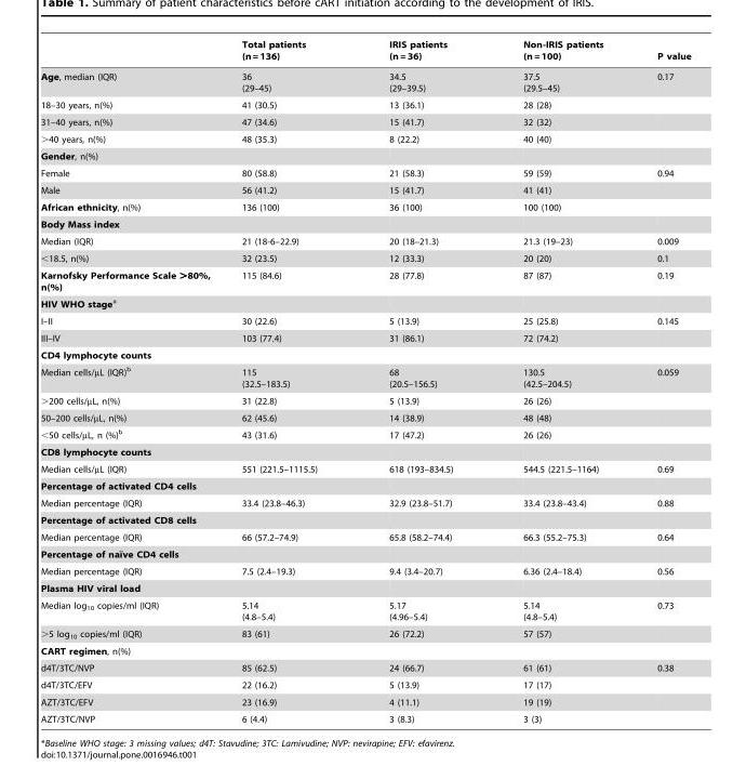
<table><thead><tr><td></td><td>Total patients (n = 136)</td><td>IRIS patients (n = 36)</td><td>Non-IRIS patients (n = 100)</td><td>P value</td></tr></thead><tbody><tr><td>Age, median (IQR)</td><td>36 (29–45)</td><td>34.5 (29–39.5)</td><td>37.5 (29.5–45)</td><td>0.17</td></tr><tr><td>18–30 years, n(%)</td><td>41 (30.5)</td><td>13 (36.1)</td><td>28 (28)</td><td></td></tr><tr><td>31–40 years, n(%)</td><td>47 (34.6)</td><td>15 (41.7)</td><td>32 (32)</td><td></td></tr><tr><td>&gt;40 years, n(%)</td><td>48 (35.3)</td><td>8 (22.2)</td><td>40 (40)</td><td></td></tr><tr><td colspan="5">Gender, n(%)</td></tr><tr><td>Female</td><td>80 (58.8)</td><td>21 (58.3)</td><td>59 (59)</td><td>0.94</td></tr><tr><td>Male</td><td>56 (41.2)</td><td>15 (41.7)</td><td>41 (41)</td><td></td></tr><tr><td>African ethnicity, n(%)</td><td>136 (100)</td><td>36 (100)</td><td>100 (100)</td><td></td></tr><tr><td colspan="5">Body Mass index</td></tr><tr><td>Median (IQR)</td><td>21 (18-6–22.9)</td><td>20 (18–21.3)</td><td>21.3 (19–23)</td><td>0.009</td></tr><tr><td>&lt;18.5, n(%)</td><td>32 (23.5)</td><td>12 (33.3)</td><td>20 (20)</td><td>0.1</td></tr><tr><td>Karnofsky Performance Scale &gt;80%, n(%)</td><td>115 (84.6)</td><td>28 (77.8)</td><td>87 (87)</td><td>0.19</td></tr><tr><td colspan="5">HIV WHO stage<sup>a</sup></td></tr><tr><td>I–II</td><td>30 (22.6)</td><td>5 (13.9)</td><td>25 (25.8)</td><td>0.145</td></tr><tr><td>III–IV</td><td>103 (77.4)</td><td>31 (86.1)</td><td>72 (74.2)</td><td></td></tr><tr><td colspan="5">CD4 lymphocyte counts</td></tr><tr><td>Median cells/µL (IQR)<sup>b</sup></td><td>115 (32.5–183.5)</td><td>68 (20.5–156.5)</td><td>130.5 (42.5–204.5)</td><td>0.059</td></tr><tr><td>&gt;200 cells/µL, n(%)</td><td>31 (22.8)</td><td>5 (13.9)</td><td>26 (26)</td><td></td></tr><tr><td>50–200 cells/µL, n(%)</td><td>62 (45.6)</td><td>14 (38.9)</td><td>48 (48)</td><td></td></tr><tr><td>&lt;50 cells/µL, n (%)<sup>b</sup></td><td>43 (31.6)</td><td>17 (47.2)</td><td>26 (26)</td><td></td></tr><tr><td colspan="5">CD8 lymphocyte counts</td></tr><tr><td>Median cells/µL (IQR)</td><td>551 (221.5–1115.5)</td><td>618 (193–834.5)</td><td>544.5 (221.5–1164)</td><td>0.69</td></tr><tr><td colspan="5">Percentage of activated CD4 cells</td></tr><tr><td>Median percentage (IQR)</td><td>33.4 (23.8–46.3)</td><td>32.9 (23.8–51.7)</td><td>33.4 (23.8–43.4)</td><td>0.88</td></tr><tr><td colspan="5">Percentage of activated CD8 cells</td></tr><tr><td>Median percentage (IQR)</td><td>66 (57.2–74.9)</td><td>65.8 (58.2–74.4)</td><td>66.3 (55.2–75.3)</td><td>0.64</td></tr><tr><td colspan="5">Percentage of naı¨ve CD4 cells</td></tr><tr><td>Median percentage (IQR)</td><td>7.5 (2.4–19.3)</td><td>9.4 (3.4–20.7)</td><td>6.36 (2.4–18.4)</td><td>0.56</td></tr><tr><td colspan="5">Plasma HIV viral load</td></tr><tr><td>Median log<sub>10</sub> copies/ml (IQR)</td><td>5.14 (4.8–5.4)</td><td>5.17 (4.96–5.4)</td><td>5.14 (4.8–5.4)</td><td>0.73</td></tr><tr><td>&gt;5 log<sub>10</sub> copies/ml (IQR)</td><td>83 (61)</td><td>26 (72.2)</td><td>57 (57)</td><td></td></tr><tr><td colspan="5">CART regimen, n(%)</td></tr><tr><td>d4T/3TC/NVP</td><td>85 (62.5)</td><td>24 (66.7)</td><td>61 (61)</td><td>0.38</td></tr><tr><td>d4T/3TC/EFV</td><td>22 (16.2)</td><td>5 (13.9)</td><td>17 (17)</td><td></td></tr><tr><td>AZT/3TC/EFV</td><td>23 (16.9)</td><td>4 (11.1)</td><td>19 (19)</td><td></td></tr><tr><td>AZT/3TC/NVP</td><td>6 (4.4)</td><td>3 (8.3)</td><td>3 (3)</td><td></td></tr></tbody></table>